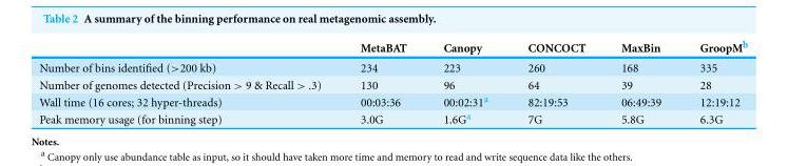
<table><thead><tr><td></td><td>MetaBAT</td><td>Canopy</td><td>CONCOCT</td><td>MaxBin</td><td>GroopM<sup>b</sup></td></tr></thead><tbody><tr><td>Number of bins identified (&gt;200 kb)</td><td>234</td><td>223</td><td>260</td><td>168</td><td>335</td></tr><tr><td>Number of genomes detected (Precision &gt; 9 &amp; Recall &gt; .3)</td><td>130</td><td>96</td><td>64</td><td>39</td><td>28</td></tr><tr><td>Wall time (16 cores; 32 hyper-threads)</td><td>00:03:36</td><td>00:02:31<sup>a</sup></td><td>82:19:53</td><td>06:49:39</td><td>12:19:12</td></tr><tr><td>Peak memory usage (for binning step)</td><td>3.0G</td><td>1.6G<sup>a</sup></td><td>7G</td><td>5.8G</td><td>6.3G</td></tr></tbody></table>